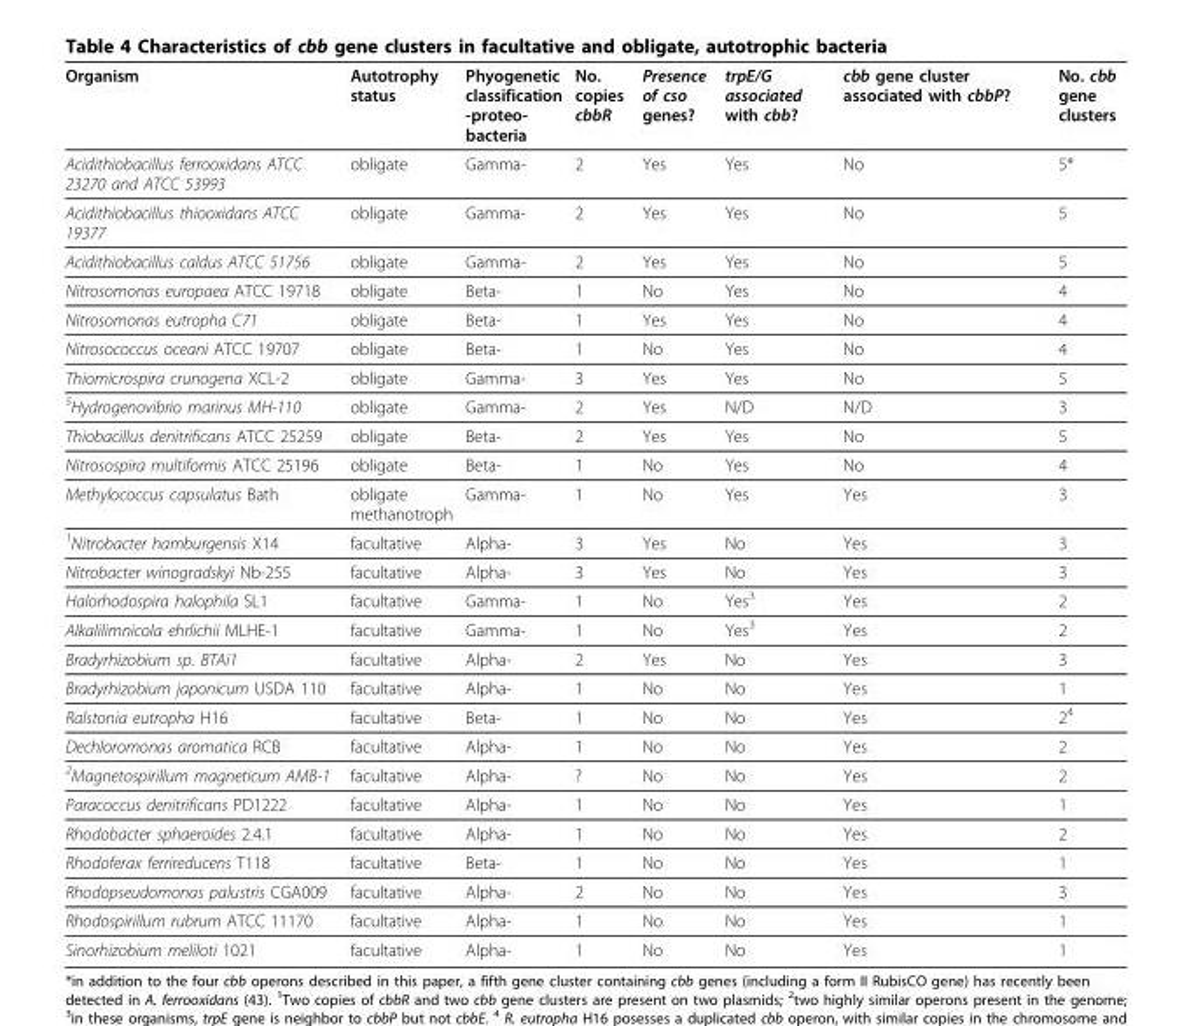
<table><thead><tr><td>Organism</td><td>Autotrophy status</td><td>Phyogenetic classification -proteo- bacteria</td><td>No. copies cbbR</td><td>Presence of cso genes?</td><td>trpE/G associated with cbb?</td><td>cbb gene cluster associated with cbbP?</td><td>No. cbb gene clusters</td></tr></thead><tbody><tr><td>Acidithiobacillus ferrooxidans ATCC 23270 and ATCC 53993</td><td>obligate</td><td>Gamma-</td><td>2</td><td>Yes</td><td>Yes</td><td>No</td><td>5*</td></tr><tr><td>Acidithiobacillus thiooxidans ATCC 19377</td><td>obligate</td><td>Gamma-</td><td>2</td><td>Yes</td><td>Yes</td><td>No</td><td>5</td></tr><tr><td>Acidithiobacillus caldus ATCC 51756</td><td>obligate</td><td>Gamma-</td><td>2</td><td>Yes</td><td>Yes</td><td>No</td><td>5</td></tr><tr><td>Nitrosomonas europaea ATCC 19718</td><td>obligate</td><td>Beta-</td><td>1</td><td>No</td><td>Yes</td><td>No</td><td>4</td></tr><tr><td>Nitrosomonas eutropha C71</td><td>obligate</td><td>Beta-</td><td>1</td><td>Yes</td><td>Yes</td><td>No</td><td>4</td></tr><tr><td>Nitrosococcus oceani ATCC 19707</td><td>obligate</td><td>Beta-</td><td>1</td><td>No</td><td>Yes</td><td>No</td><td>4</td></tr><tr><td>Thiomicrospira crunogena XCL-2</td><td>obligate</td><td>Gamma-</td><td>3</td><td>Yes</td><td>Yes</td><td>No</td><td>5</td></tr><tr><td><sup>5</sup>Hydrogenovibrio marinus MH-110</td><td>obligate</td><td>Gamma-</td><td>2</td><td>Yes</td><td>N/D</td><td>N/D</td><td>3</td></tr><tr><td>Thiobacillus denitrificans ATCC 25259</td><td>obligate</td><td>Beta-</td><td>2</td><td>Yes</td><td>Yes</td><td>No</td><td>5</td></tr><tr><td>Nitrosospira multiformis ATCC 25196</td><td>obligate</td><td>Beta-</td><td>1</td><td>No</td><td>Yes</td><td>No</td><td>4</td></tr><tr><td>Methylococcus capsulatus Bath</td><td>obligate methanotroph</td><td>Gamma-</td><td>1</td><td>No</td><td>Yes</td><td>Yes</td><td>3</td></tr><tr><td><sup>1</sup>Nitrobacter hamburgensis X14</td><td>facultative</td><td>Alpha-</td><td>3</td><td>Yes</td><td>No</td><td>Yes</td><td>3</td></tr><tr><td>Nitrobacter winogradskyi Nb-255</td><td>facultative</td><td>Alpha-</td><td>3</td><td>Yes</td><td>No</td><td>Yes</td><td>3</td></tr><tr><td>Halorhodospira halophila SL1</td><td>facultative</td><td>Gamma-</td><td>1</td><td>No</td><td>Yes<sup>3</sup></td><td>Yes</td><td>2</td></tr><tr><td>Alkalilimnicola ehrlichii MLHE-1</td><td>facultative</td><td>Gamma-</td><td>1</td><td>No</td><td>Yes<sup>3</sup></td><td>Yes</td><td>2</td></tr><tr><td>Bradyrhizobium sp. BTAi1</td><td>facultative</td><td>Alpha-</td><td>2</td><td>Yes</td><td>No</td><td>Yes</td><td>3</td></tr><tr><td>Bradyrhizobium japonicum USDA 110</td><td>facultative</td><td>Alpha-</td><td>1</td><td>No</td><td>No</td><td>Yes</td><td>1</td></tr><tr><td>Ralstonia eutropha H16</td><td>facultative</td><td>Beta-</td><td>1</td><td>No</td><td>No</td><td>Yes</td><td>2<sup>4</sup></td></tr><tr><td>Dechloromonas aromatica RCB</td><td>facultative</td><td>Alpha-</td><td>1</td><td>No</td><td>No</td><td>Yes</td><td>2</td></tr><tr><td><sup>2</sup>Magnetospirillum magneticum AMB-1</td><td>facultative</td><td>Alpha-</td><td>?</td><td>No</td><td>No</td><td>Yes</td><td>2</td></tr><tr><td>Paracoccus denitrificans PD1222</td><td>facultative</td><td>Alpha-</td><td>1</td><td>No</td><td>No</td><td>Yes</td><td>1</td></tr><tr><td>Rhodobacter sphaeroides 2.4.1</td><td>facultative</td><td>Alpha-</td><td>1</td><td>No</td><td>No</td><td>Yes</td><td>2</td></tr><tr><td>Rhodoferax ferrireducens T118</td><td>facultative</td><td>Beta-</td><td>1</td><td>No</td><td>No</td><td>Yes</td><td>1</td></tr><tr><td>Rhodopseudomonas palustris CGA009</td><td>facultative</td><td>Alpha-</td><td>2</td><td>No</td><td>No</td><td>Yes</td><td>3</td></tr><tr><td>Rhodospirillum rubrum ATCC 11170</td><td>facultative</td><td>Alpha-</td><td>1</td><td>No</td><td>No</td><td>Yes</td><td>1</td></tr><tr><td>Sinorhizobium meliloti 1021</td><td>facultative</td><td>Alpha-</td><td>1</td><td>No</td><td>No</td><td>Yes</td><td>1</td></tr></tbody></table>